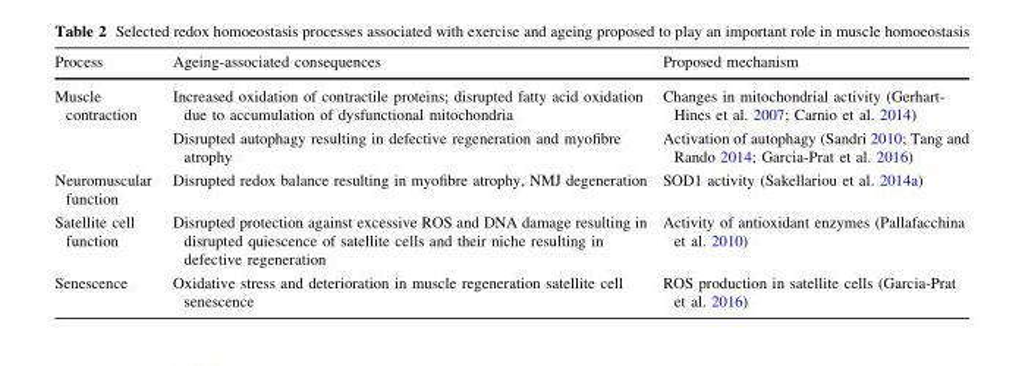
<table><thead><tr><td>Process</td><td>Ageing-associated consequences</td><td>Proposed mechanism</td></tr></thead><tbody><tr><td rowspan="2">Muscle contraction</td><td>Increased oxidation of contractile proteins; disrupted fatty acid oxidation due to accumulation of dysfunctional mitochondria</td><td>Changes in mitochondrial activity (Gerhart- Hines et al. 2007; Carnio et al. 2014)</td></tr><tr><td>Disrupted autophagy resulting in defective regeneration and myofibre atrophy</td><td>Activation of autophagy (Sandri 2010; Tang and Rando 2014; Garcia-Prat et al. 2016)</td></tr><tr><td>Neuromuscular function</td><td>Disrupted redox balance resulting in myofibre atrophy, NMJ degeneration</td><td>SOD1 activity (Sakellariou et al. 2014a)</td></tr><tr><td>Satellite cell function</td><td>Disrupted protection against excessive ROS and DNA damage resulting in disrupted quiescence of satellite cells and their niche resulting in defective regeneration</td><td>Activity of antioxidant enzymes (Pallafacchina et al. 2010)</td></tr><tr><td>Senescence</td><td>Oxidative stress and deterioration in muscle regeneration satellite cell senescence</td><td>ROS production in satellite cells (Garcia-Prat et al. 2016)</td></tr></tbody></table>